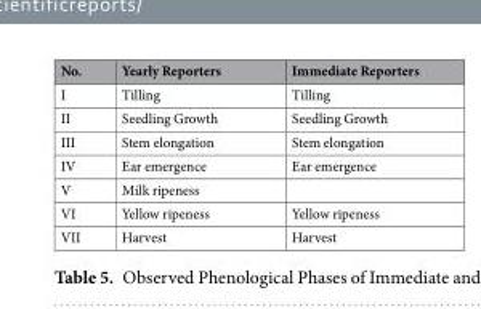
<table><thead><tr><td>No.</td><td>Yearly Reporters</td><td>Immediate Reporters</td></tr></thead><tbody><tr><td>I</td><td>Tilling</td><td>Tilling</td></tr><tr><td>II</td><td>Seedling Growth</td><td>Seedling Growth</td></tr><tr><td>III</td><td>Stem elongation</td><td>Stem elongation</td></tr><tr><td>IV</td><td>Ear emergence</td><td>Ear emergence</td></tr><tr><td>V</td><td>Milk ripeness</td><td></td></tr><tr><td>VI</td><td>Yellow ripeness</td><td>Yellow ripeness</td></tr><tr><td>VII</td><td>Harvest</td><td>Harvest</td></tr></tbody></table>